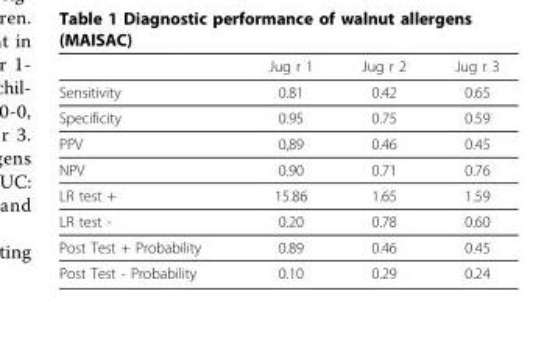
<table><thead><tr><td></td><td>Jug r 1</td><td>Jug r 2</td><td>Jug r 3</td></tr></thead><tbody><tr><td>Sensitivity</td><td>0.81</td><td>0.42</td><td>0.65</td></tr><tr><td>Specificity</td><td>0.95</td><td>0.75</td><td>0.59</td></tr><tr><td>PPV</td><td>0,89</td><td>0.46</td><td>0.45</td></tr><tr><td>NPV</td><td>0.90</td><td>0.71</td><td>0.76</td></tr><tr><td>LR test +</td><td>15.86</td><td>1.65</td><td>1.59</td></tr><tr><td>LR test -</td><td>0.20</td><td>0.78</td><td>0.60</td></tr><tr><td>Post Test + Probability</td><td>0.89</td><td>0.46</td><td>0.45</td></tr><tr><td>Post Test - Probability</td><td>0.10</td><td>0.29</td><td>0.24</td></tr></tbody></table>